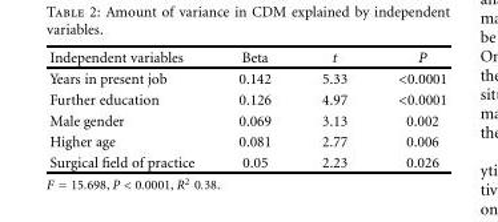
<table><thead><tr><td>Independent variables</td><td>Beta</td><td>t</td><td>P</td></tr></thead><tbody><tr><td>Years in present job</td><td>0.142</td><td>5.33</td><td>&lt;0.0001</td></tr><tr><td>Further education</td><td>0.126</td><td>4.97</td><td>&lt;0.0001</td></tr><tr><td>Male gender</td><td>0.069</td><td>3.13</td><td>0.002</td></tr><tr><td>Higher age</td><td>0.081</td><td>2.77</td><td>0.006</td></tr><tr><td>Surgical field of practice</td><td>0.05</td><td>2.23</td><td>0.026</td></tr></tbody></table>